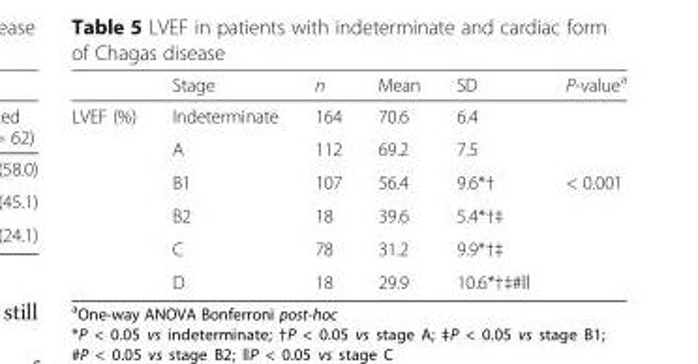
<table><thead><tr><td></td><td>Stage</td><td>n</td><td>Mean</td><td>SD</td><td>P-value<sup>a</sup></td></tr></thead><tbody><tr><td rowspan="6">LVEF (%)</td><td>Indeterminate</td><td>164</td><td>70.6</td><td>6.4</td><td></td></tr><tr><td>A</td><td>112</td><td>69.2</td><td>7.5</td><td></td></tr><tr><td>B1</td><td>107</td><td>56.4</td><td>9.6*†</td><td>&lt; 0.001</td></tr><tr><td>B2</td><td>18</td><td>39.6</td><td>5.4*†‡</td><td></td></tr><tr><td>C</td><td>78</td><td>31.2</td><td>9.9*†‡</td><td></td></tr><tr><td>D</td><td>18</td><td>29.9</td><td>10.6*†‡#ǁ</td><td></td></tr></tbody></table>